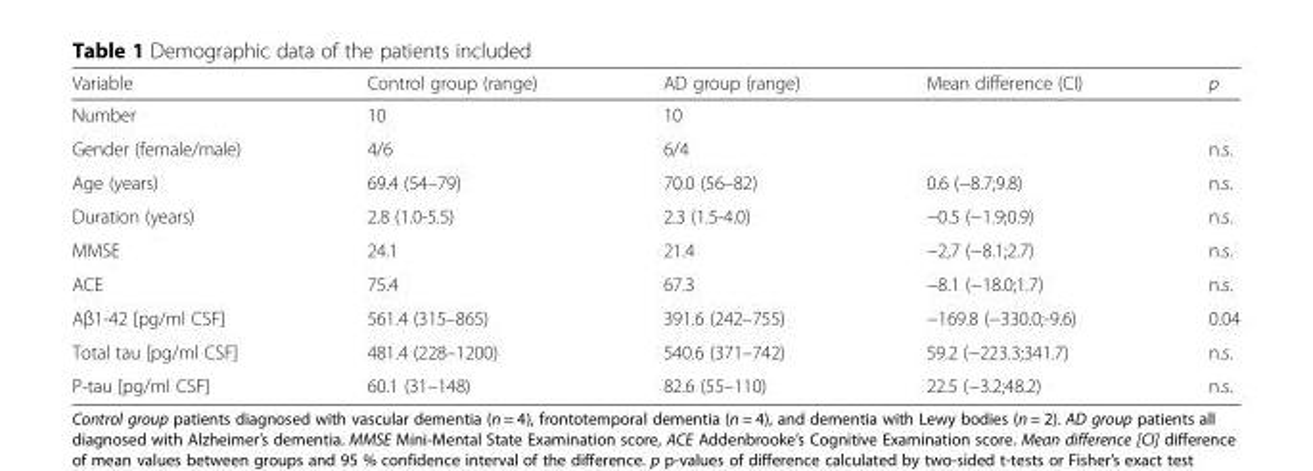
<table><thead><tr><td>Variable</td><td>Control group (range)</td><td>AD group (range)</td><td>Mean difference (CI)</td><td>p</td></tr></thead><tbody><tr><td>Number</td><td>10</td><td>10</td><td></td><td></td></tr><tr><td>Gender (female/male)</td><td>4/6</td><td>6/4</td><td></td><td>n.s.</td></tr><tr><td>Age (years)</td><td>69.4 (54–79)</td><td>70.0 (56–82)</td><td>0.6 (−8.7;9.8)</td><td>n.s.</td></tr><tr><td>Duration (years)</td><td>2.8 (1.0-5.5)</td><td>2.3 (1.5-4.0)</td><td>−0.5 (−1.9;0.9)</td><td>n.s.</td></tr><tr><td>MMSE</td><td>24.1</td><td>21.4</td><td>−2,7 (−8.1;2.7)</td><td>n.s.</td></tr><tr><td>ACE</td><td>75.4</td><td>67.3</td><td>−8.1 (−18.0;1.7)</td><td>n.s.</td></tr><tr><td>Aβ1-42 [pg/ml CSF]</td><td>561.4 (315–865)</td><td>391.6 (242–755)</td><td>−169.8 (−330.0;-9.6)</td><td>0.04</td></tr><tr><td>Total tau [pg/ml CSF]</td><td>481.4 (228–1200)</td><td>540.6 (371–742)</td><td>59.2 (−223.3;341.7)</td><td>n.s.</td></tr><tr><td>P-tau [pg/ml CSF]</td><td>60.1 (31–148)</td><td>82.6 (55–110)</td><td>22.5 (−3.2;48.2)</td><td>n.s.</td></tr></tbody></table>